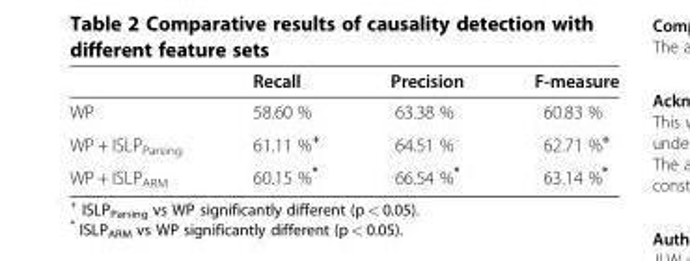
<table><thead><tr><td></td><td>Recall</td><td>Precision</td><td>F-measure</td></tr></thead><tbody><tr><td>WP</td><td>58.60 %</td><td>63.38 %</td><td>60.83 %</td></tr><tr><td>WP + ISLP<sub>Parsing</sub></td><td>61.11 %<sup>+</sup></td><td>64.51 %</td><td>62.71 %<sup>+</sup></td></tr><tr><td>WP + ISLP<sub>ARM</sub></td><td>60.15 %*</td><td>66.54 %*</td><td>63.14 %*</td></tr></tbody></table>